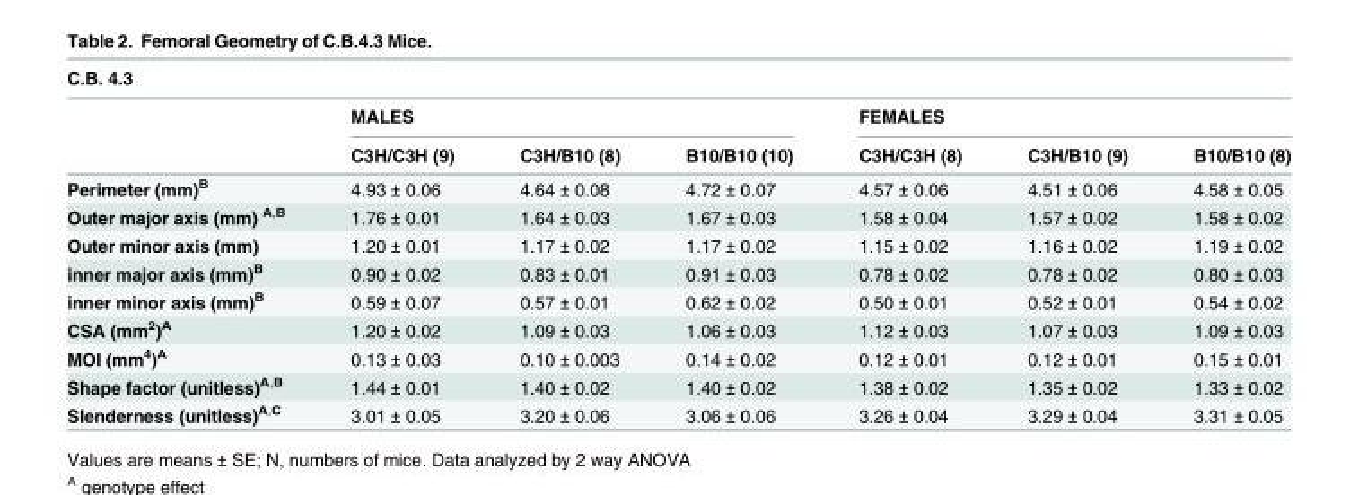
<table><thead><tr><td colspan="7">C.B. 4.3</td></tr><tr><td rowspan="2"></td><td colspan="3">MALES</td><td colspan="3">FEMALES</td></tr><tr><td>C3H/C3H (9)</td><td>C3H/B10 (8)</td><td>B10/B10 (10)</td><td>C3H/C3H (8)</td><td>C3H/B10 (9)</td><td>B10/B10 (8)</td></tr></thead><tbody><tr><td>Perimeter (mm)<sup>B</sup></td><td>4.93 ± 0.06</td><td>4.64 ± 0.08</td><td>4.72 ± 0.07</td><td>4.57 ± 0.06</td><td>4.51 ± 0.06</td><td>4.58 ± 0.05</td></tr><tr><td>Outer major axis (mm) <sup>A,B</sup></td><td>1.76 ± 0.01</td><td>1.64 ± 0.03</td><td>1.67 ± 0.03</td><td>1.58 ± 0.04</td><td>1.57 ± 0.02</td><td>1.58 ± 0.02</td></tr><tr><td>Outer minor axis (mm)</td><td>1.20 ± 0.01</td><td>1.17 ± 0.02</td><td>1.17 ± 0.02</td><td>1.15 ± 0.02</td><td>1.16 ± 0.02</td><td>1.19 ± 0.02</td></tr><tr><td>inner major axis (mm)<sup>B</sup></td><td>0.90 ± 0.02</td><td>0.83 ± 0.01</td><td>0.91 ± 0.03</td><td>0.78 ± 0.02</td><td>0.78 ± 0.02</td><td>0.80 ± 0.03</td></tr><tr><td>inner minor axis (mm)<sup>B</sup></td><td>0.59 ± 0.07</td><td>0.57 ± 0.01</td><td>0.62 ± 0.02</td><td>0.50 ± 0.01</td><td>0.52 ± 0.01</td><td>0.54 ± 0.02</td></tr><tr><td>CSA (mm<sup>2</sup>)<sup>A</sup></td><td>1.20 ± 0.02</td><td>1.09 ± 0.03</td><td>1.06 ± 0.03</td><td>1.12 ± 0.03</td><td>1.07 ± 0.03</td><td>1.09 ± 0.03</td></tr><tr><td>MOI (mm<sup>4</sup>)<sup>A</sup></td><td>0.13 ± 0.03</td><td>0.10 ± 0.003</td><td>0.14 ± 0.02</td><td>0.12 ± 0.01</td><td>0.12 ± 0.01</td><td>0.15 ± 0.01</td></tr><tr><td>Shape factor (unitless)<sup>A,B</sup></td><td>1.44 ± 0.01</td><td>1.40 ± 0.02</td><td>1.40 ± 0.02</td><td>1.38 ± 0.02</td><td>1.35 ± 0.02</td><td>1.33 ± 0.02</td></tr><tr><td>Slenderness (unitless)<sup>A,C</sup></td><td>3.01 ± 0.05</td><td>3.20 ± 0.06</td><td>3.06 ± 0.06</td><td>3.26 ± 0.04</td><td>3.29 ± 0.04</td><td>3.31 ± 0.05</td></tr></tbody></table>